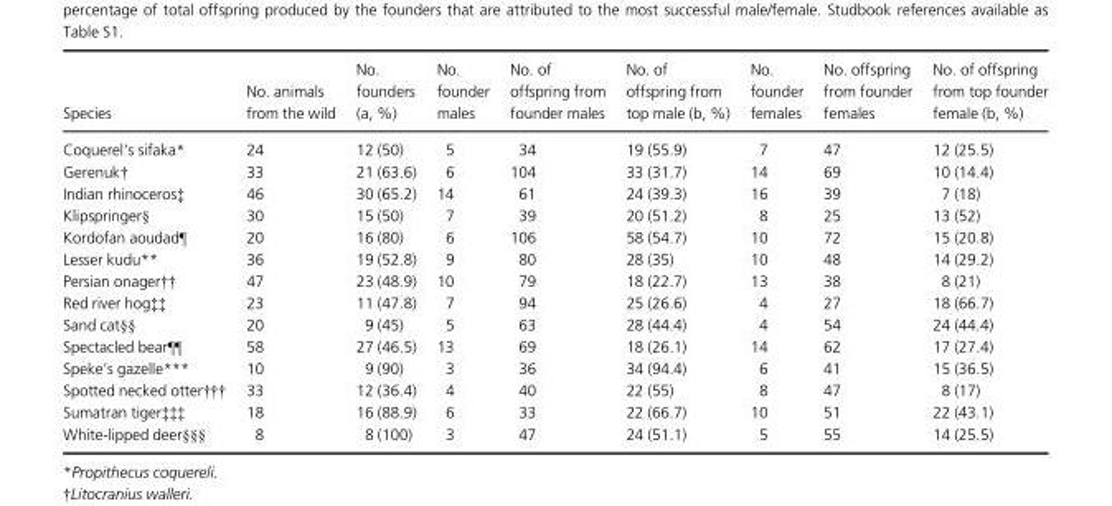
<table><thead><tr><td>Species</td><td>No. animals from the wild</td><td>No. founders (a, %)</td><td>No. founder males</td><td>No. of offspring from founder males</td><td>No. of offspring from top male (b, %)</td><td>No. founder females</td><td>No. offspring from founder females</td><td>No. of offspring from top founder female (b, %)</td></tr></thead><tbody><tr><td>Coquerel’s sifaka*</td><td>24</td><td>12 (50)</td><td>5</td><td>34</td><td>19 (55.9)</td><td>7</td><td>47</td><td>12 (25.5)</td></tr><tr><td>Gerenuk†</td><td>33</td><td>21 (63.6)</td><td>6</td><td>104</td><td>33 (31.7)</td><td>14</td><td>69</td><td>10 (14.4)</td></tr><tr><td>Indian rhinoceros‡</td><td>46</td><td>30 (65.2)</td><td>14</td><td>61</td><td>24 (39.3)</td><td>16</td><td>39</td><td>7 (18)</td></tr><tr><td>Klipspringer§</td><td>30</td><td>15 (50)</td><td>7</td><td>39</td><td>20 (51.2)</td><td>8</td><td>25</td><td>13 (52)</td></tr><tr><td>Kordofan aoudad¶</td><td>20</td><td>16 (80)</td><td>6</td><td>106</td><td>58 (54.7)</td><td>10</td><td>72</td><td>15 (20.8)</td></tr><tr><td>Lesser kudu**</td><td>36</td><td>19 (52.8)</td><td>9</td><td>80</td><td>28 (35)</td><td>10</td><td>48</td><td>14 (29.2)</td></tr><tr><td>Persian onager††</td><td>47</td><td>23 (48.9)</td><td>10</td><td>79</td><td>18 (22.7)</td><td>13</td><td>38</td><td>8 (21)</td></tr><tr><td>Red river hog‡‡</td><td>23</td><td>11 (47.8)</td><td>7</td><td>94</td><td>25 (26.6)</td><td>4</td><td>27</td><td>18 (66.7)</td></tr><tr><td>Sand cat§§</td><td>20</td><td>9 (45)</td><td>5</td><td>63</td><td>28 (44.4)</td><td>4</td><td>54</td><td>24 (44.4)</td></tr><tr><td>Spectacled bear¶¶</td><td>58</td><td>27 (46.5)</td><td>13</td><td>69</td><td>18 (26.1)</td><td>14</td><td>62</td><td>17 (27.4)</td></tr><tr><td>Speke’s gazelle***</td><td>10</td><td>9 (90)</td><td>3</td><td>36</td><td>34 (94.4)</td><td>6</td><td>41</td><td>15 (36.5)</td></tr><tr><td>Spotted necked otter†††</td><td>33</td><td>12 (36.4)</td><td>4</td><td>40</td><td>22 (55)</td><td>8</td><td>47</td><td>8 (17)</td></tr><tr><td>Sumatran tiger‡‡‡</td><td>18</td><td>16 (88.9)</td><td>6</td><td>33</td><td>22 (66.7)</td><td>10</td><td>51</td><td>22 (43.1)</td></tr><tr><td>White-lipped deer§§§</td><td>8</td><td>8 (100)</td><td>3</td><td>47</td><td>24 (51.1)</td><td>5</td><td>55</td><td>14 (25.5)</td></tr></tbody></table>